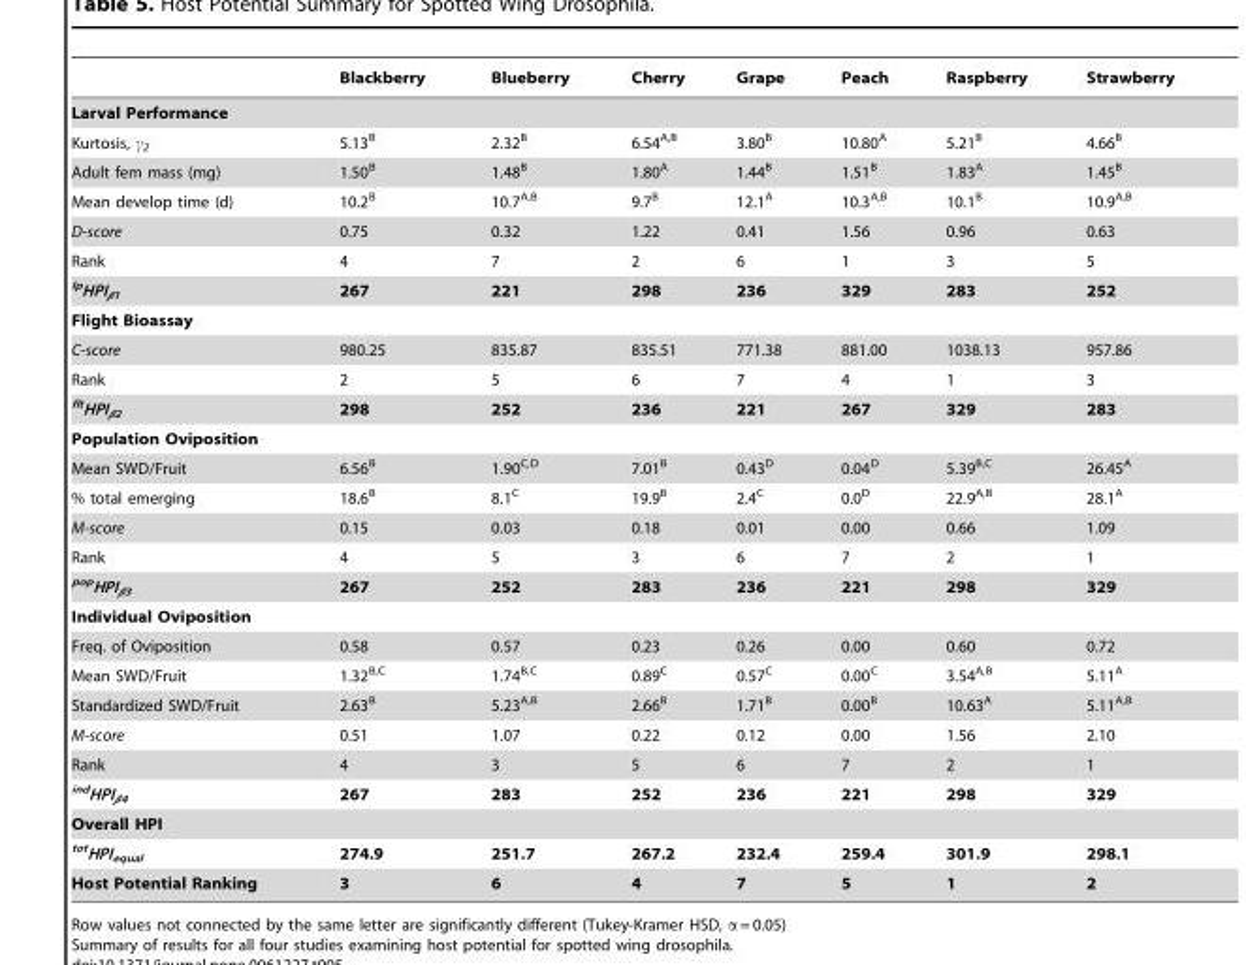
<table><thead><tr><td></td><td>Blackberry</td><td>Blueberry</td><td>Cherry</td><td>Grape</td><td>Peach</td><td>Raspberry</td><td>Strawberry</td></tr></thead><tbody><tr><td colspan="8">Larval Performance</td></tr><tr><td>Kurtosis, γ<sub>2</sub></td><td>5.13<sup>B</sup></td><td>2.32<sup>B</sup></td><td>6.54<sup>A,B</sup></td><td>3.80<sup>B</sup></td><td>10.80<sup>A</sup></td><td>5.21<sup>B</sup></td><td>4.66<sup>B</sup></td></tr><tr><td>Adult fem mass (mg)</td><td>1.50<sup>B</sup></td><td>1.48<sup>B</sup></td><td>1.80<sup>A</sup></td><td>1.44<sup>B</sup></td><td>1.51<sup>B</sup></td><td>1.83<sup>A</sup></td><td>1.45<sup>B</sup></td></tr><tr><td>Mean develop time (d)</td><td>10.2<sup>B</sup></td><td>10.7<sup>A,B</sup></td><td>9.7<sup>B</sup></td><td>12.1<sup>A</sup></td><td>10.3<sup>A,B</sup></td><td>10.1<sup>B</sup></td><td>10.9<sup>A,B</sup></td></tr><tr><td>D-score</td><td>0.75</td><td>0.32</td><td>1.22</td><td>0.41</td><td>1.56</td><td>0.96</td><td>0.63</td></tr><tr><td>Rank</td><td>4</td><td>7</td><td>2</td><td>6</td><td>1</td><td>3</td><td>5</td></tr><tr><td><sup>lp</sup>HPI<sub>β1</sub></td><td>267</td><td>221</td><td>298</td><td>236</td><td>329</td><td>283</td><td>252</td></tr><tr><td colspan="8">Flight Bioassay</td></tr><tr><td>C-score</td><td>980.25</td><td>835.87</td><td>835.51</td><td>771.38</td><td>881.00</td><td>1038.13</td><td>957.86</td></tr><tr><td>Rank</td><td>2</td><td>5</td><td>6</td><td>7</td><td>4</td><td>1</td><td>3</td></tr><tr><td><sup>flt</sup>HPI<sub>β2</sub></td><td>298</td><td>252</td><td>236</td><td>221</td><td>267</td><td>329</td><td>283</td></tr><tr><td colspan="8">Population Oviposition</td></tr><tr><td>Mean SWD/Fruit</td><td>6.56<sup>B</sup></td><td>1.90<sup>C,D</sup></td><td>7.01<sup>B</sup></td><td>0.43<sup>D</sup></td><td>0.04<sup>D</sup></td><td>5.39<sup>B,C</sup></td><td>26.45<sup>A</sup></td></tr><tr><td>% total emerging</td><td>18.6<sup>B</sup></td><td>8.1<sup>C</sup></td><td>19.9<sup>B</sup></td><td>2.4<sup>C</sup></td><td>0.0<sup>D</sup></td><td>22.9<sup>A,B</sup></td><td>28.1<sup>A</sup></td></tr><tr><td>M-score</td><td>0.15</td><td>0.03</td><td>0.18</td><td>0.01</td><td>0.00</td><td>0.66</td><td>1.09</td></tr><tr><td>Rank</td><td>4</td><td>5</td><td>3</td><td>6</td><td>7</td><td>2</td><td>1</td></tr><tr><td><sup>pop</sup>HPI<sub>β3</sub></td><td>267</td><td>252</td><td>283</td><td>236</td><td>221</td><td>298</td><td>329</td></tr><tr><td colspan="8">Individual Oviposition</td></tr><tr><td>Freq. of Oviposition</td><td>0.58</td><td>0.57</td><td>0.23</td><td>0.26</td><td>0.00</td><td>0.60</td><td>0.72</td></tr><tr><td>Mean SWD/Fruit</td><td>1.32<sup>B,C</sup></td><td>1.74<sup>B,C</sup></td><td>0.89<sup>C</sup></td><td>0.57<sup>C</sup></td><td>0.00<sup>C</sup></td><td>3.54<sup>A,B</sup></td><td>5.11<sup>A</sup></td></tr><tr><td>Standardized SWD/Fruit</td><td>2.63<sup>B</sup></td><td>5.23<sup>A,B</sup></td><td>2.66<sup>B</sup></td><td>1.71<sup>B</sup></td><td>0.00<sup>B</sup></td><td>10.63<sup>A</sup></td><td>5.11<sup>A,B</sup></td></tr><tr><td>M-score</td><td>0.51</td><td>1.07</td><td>0.22</td><td>0.12</td><td>0.00</td><td>1.56</td><td>2.10</td></tr><tr><td>Rank</td><td>4</td><td>3</td><td>5</td><td>6</td><td>7</td><td>2</td><td>1</td></tr><tr><td><sup>ind</sup>HPI<sub>β4</sub></td><td>267</td><td>283</td><td>252</td><td>236</td><td>221</td><td>298</td><td>329</td></tr><tr><td colspan="8">Overall HPI</td></tr><tr><td><sup>tot</sup>HPI<sub>equal</sub></td><td>274.9</td><td>251.7</td><td>267.2</td><td>232.4</td><td>259.4</td><td>301.9</td><td>298.1</td></tr><tr><td>Host Potential Ranking</td><td>3</td><td>6</td><td>4</td><td>7</td><td>5</td><td>1</td><td>2</td></tr></tbody></table>